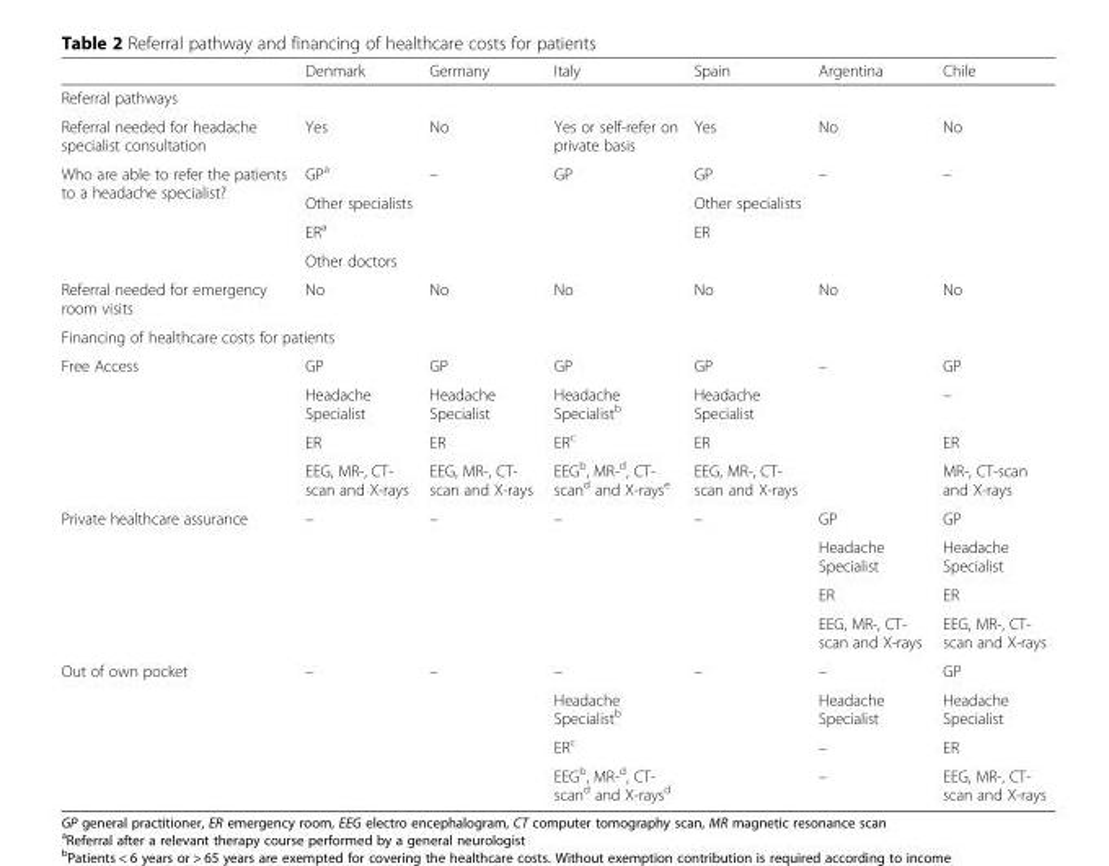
<table><thead><tr><td></td><td>Denmark</td><td>Germany</td><td>Italy</td><td>Spain</td><td>Argentina</td><td>Chile</td></tr></thead><tbody><tr><td colspan="7">Referral pathways</td></tr><tr><td>Referral needed for headache specialist consultation</td><td>Yes</td><td>No</td><td>Yes or self-refer on private basis</td><td>Yes</td><td>No</td><td>No</td></tr><tr><td rowspan="4">Who are able to refer the patients to a headache specialist?</td><td>GP<sup>a</sup></td><td rowspan="4">–</td><td rowspan="4">GP</td><td>GP</td><td rowspan="4">–</td><td rowspan="4">–</td></tr><tr><td>Other specialists</td><td>Other specialists</td></tr><tr><td>ER<sup>a</sup></td><td>ER</td></tr><tr><td>Other doctors</td><td></td></tr><tr><td>Referral needed for emergency room visits</td><td>No</td><td>No</td><td>No</td><td>No</td><td>No</td><td>No</td></tr><tr><td colspan="7">Financing of healthcare costs for patients</td></tr><tr><td rowspan="4">Free Access</td><td>GP</td><td>GP</td><td>GP</td><td>GP</td><td rowspan="4">–</td><td>GP</td></tr><tr><td>Headache Specialist</td><td>Headache Specialist</td><td>Headache Specialist<sup>b</sup></td><td>Headache Specialist</td><td>–</td></tr><tr><td>ER</td><td>ER</td><td>ER<sup>c</sup></td><td>ER</td><td>ER</td></tr><tr><td>EEG, MR-, CT- scan and X-rays</td><td>EEG, MR-, CT- scan and X-rays</td><td>EEG<sup>b</sup>, MR-<sup>d</sup>, CT- scan<sup>d</sup> and X-rays<sup>e</sup></td><td>EEG, MR-, CT- scan and X-rays</td><td>MR-, CT-scan and X-rays</td></tr><tr><td rowspan="4">Private healthcare assurance</td><td rowspan="4">–</td><td rowspan="4">–</td><td rowspan="4">–</td><td rowspan="4">–</td><td>GP</td><td>GP</td></tr><tr><td>Headache Specialist</td><td>Headache Specialist</td></tr><tr><td>ER</td><td>ER</td></tr><tr><td>EEG, MR-, CT- scan and X-rays</td><td>EEG, MR-, CT- scan and X-rays</td></tr><tr><td rowspan="4">Out of own pocket</td><td rowspan="4">–</td><td rowspan="4">–</td><td>–</td><td rowspan="4">–</td><td>–</td><td>GP</td></tr><tr><td>Headache Specialist<sup>b</sup></td><td>Headache Specialist</td><td>Headache Specialist</td></tr><tr><td>ER<sup>c</sup></td><td>–</td><td>ER</td></tr><tr><td>EEG<sup>b</sup>, MR-<sup>d</sup>, CT- scan<sup>d</sup> and X-rays<sup>d</sup></td><td>–</td><td>EEG, MR-, CT- scan and X-rays</td></tr></tbody></table>